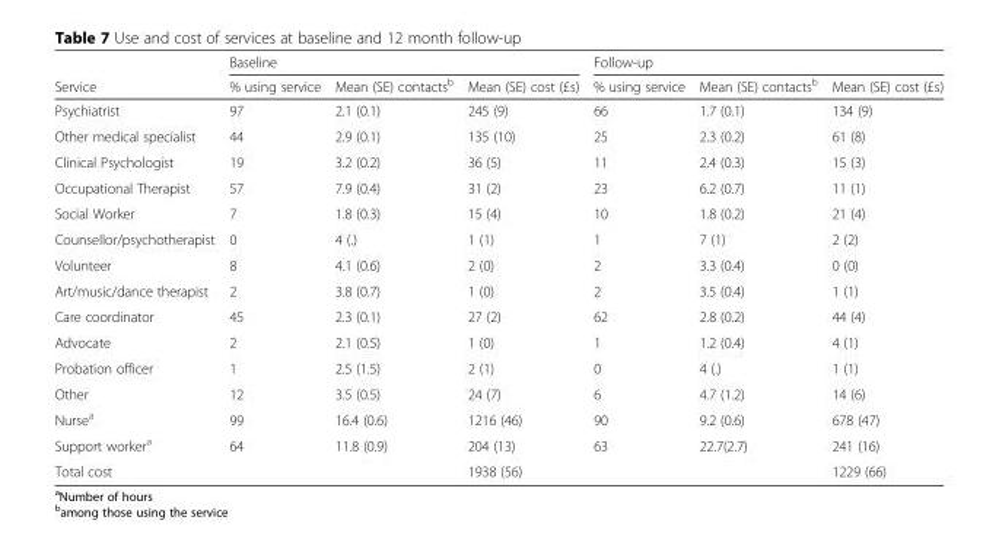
<table><thead><tr><td rowspan="2">Service</td><td colspan="3">Baseline</td><td colspan="3">Follow-up</td></tr><tr><td>% using service</td><td>Mean (SE) contacts<sup>b</sup></td><td>Mean (SE) cost (£s)</td><td>% using service</td><td>Mean (SE) contacts<sup>b</sup></td><td>Mean (SE) cost (£s)</td></tr></thead><tbody><tr><td>Psychiatrist</td><td>97</td><td>2.1 (0.1)</td><td>245 (9)</td><td>66</td><td>1.7 (0.1)</td><td>134 (9)</td></tr><tr><td>Other medical specialist</td><td>44</td><td>2.9 (0.1)</td><td>135 (10)</td><td>25</td><td>2.3 (0.2)</td><td>61 (8)</td></tr><tr><td>Clinical Psychologist</td><td>19</td><td>3.2 (0.2)</td><td>36 (5)</td><td>11</td><td>2.4 (0.3)</td><td>15 (3)</td></tr><tr><td>Occupational Therapist</td><td>57</td><td>7.9 (0.4)</td><td>31 (2)</td><td>23</td><td>6.2 (0.7)</td><td>11 (1)</td></tr><tr><td>Social Worker</td><td>7</td><td>1.8 (0.3)</td><td>15 (4)</td><td>10</td><td>1.8 (0.2)</td><td>21 (4)</td></tr><tr><td>Counsellor/psychotherapist</td><td>0</td><td>4 (.)</td><td>1 (1)</td><td>1</td><td>7 (1)</td><td>2 (2)</td></tr><tr><td>Volunteer</td><td>8</td><td>4.1 (0.6)</td><td>2 (0)</td><td>2</td><td>3.3 (0.4)</td><td>0 (0)</td></tr><tr><td>Art/music/dance therapist</td><td>2</td><td>3.8 (0.7)</td><td>1 (0)</td><td>2</td><td>3.5 (0.4)</td><td>1 (1)</td></tr><tr><td>Care coordinator</td><td>45</td><td>2.3 (0.1)</td><td>27 (2)</td><td>62</td><td>2.8 (0.2)</td><td>44 (4)</td></tr><tr><td>Advocate</td><td>2</td><td>2.1 (0.5)</td><td>1 (0)</td><td>1</td><td>1.2 (0.4)</td><td>4 (1)</td></tr><tr><td>Probation officer</td><td>1</td><td>2.5 (1.5)</td><td>2 (1)</td><td>0</td><td>4 (.)</td><td>1 (1)</td></tr><tr><td>Other</td><td>12</td><td>3.5 (0.5)</td><td>24 (7)</td><td>6</td><td>4.7 (1.2)</td><td>14 (6)</td></tr><tr><td>Nurse<sup>a</sup></td><td>99</td><td>16.4 (0.6)</td><td>1216 (46)</td><td>90</td><td>9.2 (0.6)</td><td>678 (47)</td></tr><tr><td>Support worker<sup>a</sup></td><td>64</td><td>11.8 (0.9)</td><td>204 (13)</td><td>63</td><td>22.7(2.7)</td><td>241 (16)</td></tr><tr><td>Total cost</td><td></td><td></td><td>1938 (56)</td><td></td><td></td><td>1229 (66)</td></tr></tbody></table>